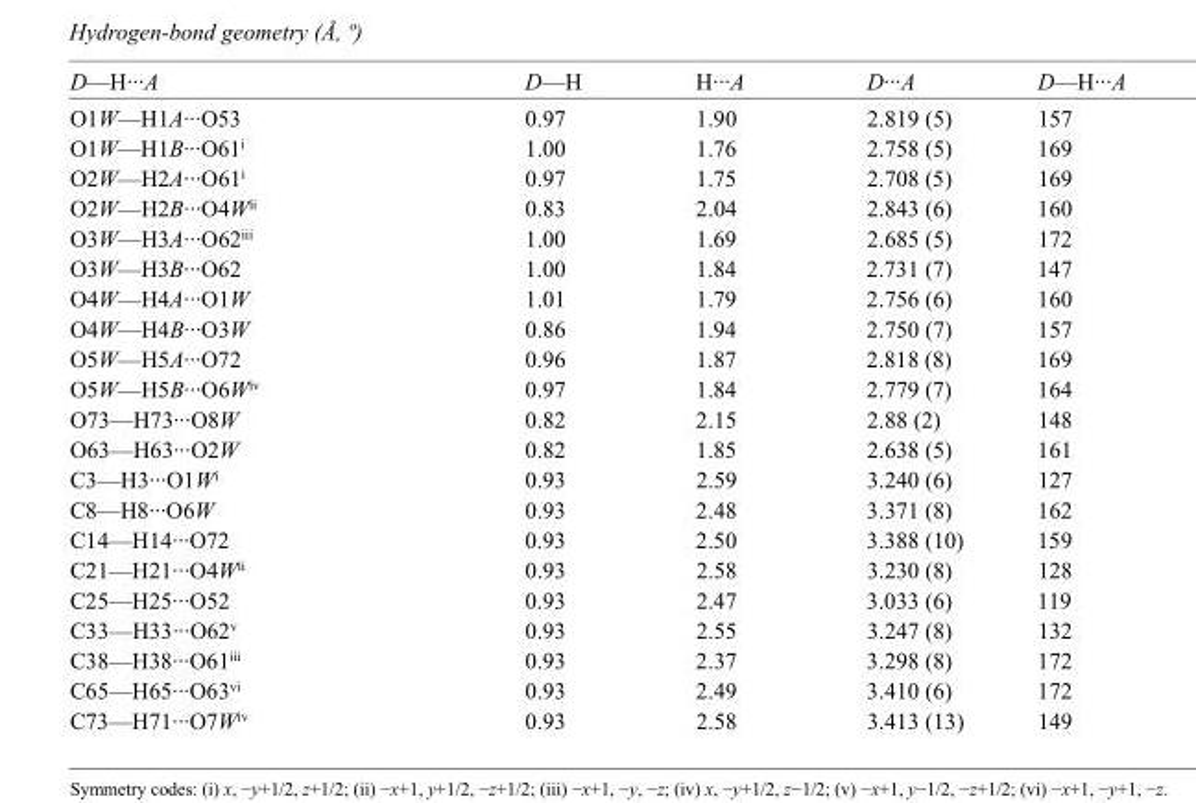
<table><tbody><tr><td>D—H···A</td><td>D—H</td><td>H···A</td><td>D···A</td><td>D—H···A</td></tr><tr><td>O1W—H1A···O53</td><td>0.97</td><td>1.90</td><td>2.819 (5)</td><td>157</td></tr><tr><td>O1W—H1B···O61<sup>i</sup></td><td>1.00</td><td>1.76</td><td>2.758 (5)</td><td>169</td></tr><tr><td>O2W—H2A···O61<sup>i</sup></td><td>0.97</td><td>1.75</td><td>2.708 (5)</td><td>169</td></tr><tr><td>O2W—H2B···O4W<sup>ii</sup></td><td>0.83</td><td>2.04</td><td>2.843 (6)</td><td>160</td></tr><tr><td>O3W—H3A···O62<sup>iii</sup></td><td>1.00</td><td>1.69</td><td>2.685 (5)</td><td>172</td></tr><tr><td>O3W—H3B···O62</td><td>1.00</td><td>1.84</td><td>2.731 (7)</td><td>147</td></tr><tr><td>O4W—H4A···O1W</td><td>1.01</td><td>1.79</td><td>2.756 (6)</td><td>160</td></tr><tr><td>O4W—H4B···O3W</td><td>0.86</td><td>1.94</td><td>2.750 (7)</td><td>157</td></tr><tr><td>O5W—H5A···O72</td><td>0.96</td><td>1.87</td><td>2.818 (8)</td><td>169</td></tr><tr><td>O5W—H5B···O6W<sup>iv</sup></td><td>0.97</td><td>1.84</td><td>2.779 (7)</td><td>164</td></tr><tr><td>O73—H73···O8W</td><td>0.82</td><td>2.15</td><td>2.88 (2)</td><td>148</td></tr><tr><td>O63—H63···O2W</td><td>0.82</td><td>1.85</td><td>2.638 (5)</td><td>161</td></tr><tr><td>C3—H3···O1W<sup>i</sup></td><td>0.93</td><td>2.59</td><td>3.240 (6)</td><td>127</td></tr><tr><td>C8—H8···O6W</td><td>0.93</td><td>2.48</td><td>3.371 (8)</td><td>162</td></tr><tr><td>C14—H14···O72</td><td>0.93</td><td>2.50</td><td>3.388 (10)</td><td>159</td></tr><tr><td>C21—H21···O4W<sup>ii</sup></td><td>0.93</td><td>2.58</td><td>3.230 (8)</td><td>128</td></tr><tr><td>C25—H25···O52</td><td>0.93</td><td>2.47</td><td>3.033 (6)</td><td>119</td></tr><tr><td>C33—H33···O62<sup>v</sup></td><td>0.93</td><td>2.55</td><td>3.247 (8)</td><td>132</td></tr><tr><td>C38—H38···O61<sup>iii</sup></td><td>0.93</td><td>2.37</td><td>3.298 (8)</td><td>172</td></tr><tr><td>C65—H65···O63<sup>vi</sup></td><td>0.93</td><td>2.49</td><td>3.410 (6)</td><td>172</td></tr><tr><td>C73—H71···O7W<sup>iv</sup></td><td>0.93</td><td>2.58</td><td>3.413 (13)</td><td>149</td></tr></tbody></table>